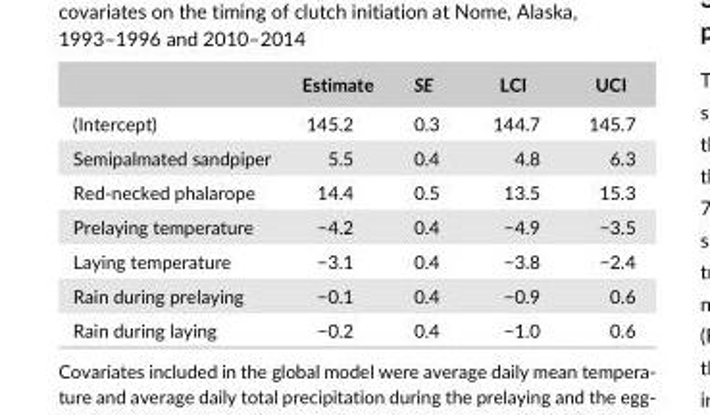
<table><thead><tr><td></td><td>Estimate</td><td>SE</td><td>LCI</td><td>UCI</td></tr></thead><tbody><tr><td>(Intercept)</td><td>145.2</td><td>0.3</td><td>144.7</td><td>145.7</td></tr><tr><td>Semipalmated sandpiper</td><td>5.5</td><td>0.4</td><td>4.8</td><td>6.3</td></tr><tr><td>Red- necked phalarope</td><td>14.4</td><td>0.5</td><td>13.5</td><td>15.3</td></tr><tr><td>Prelaying temperature</td><td>−4.2</td><td>0.4</td><td>−4.9</td><td>−3.5</td></tr><tr><td>Laying temperature</td><td>−3.1</td><td>0.4</td><td>−3.8</td><td>−2.4</td></tr><tr><td>Rain during prelaying</td><td>−0.1</td><td>0.4</td><td>−0.9</td><td>0.6</td></tr><tr><td>Rain during laying</td><td>−0.2</td><td>0.4</td><td>−1.0</td><td>0.6</td></tr></tbody></table>